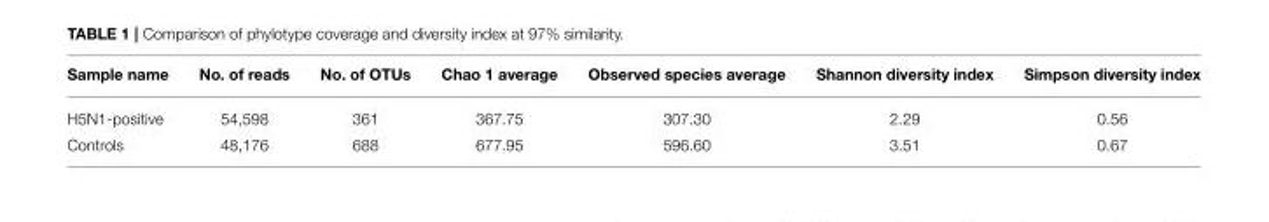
<table><thead><tr><td>Sample name</td><td>No. of reads</td><td>No. of OTUs</td><td>Chao 1 average</td><td>Observed species average</td><td>Shannon diversity index</td><td>Simpson diversity index</td></tr></thead><tbody><tr><td>H5N1-positive</td><td>54,598</td><td>361</td><td>367.75</td><td>307.30</td><td>2.29</td><td>0.56</td></tr><tr><td>Controls</td><td>48,176</td><td>688</td><td>677.95</td><td>596.60</td><td>3.51</td><td>0.67</td></tr></tbody></table>